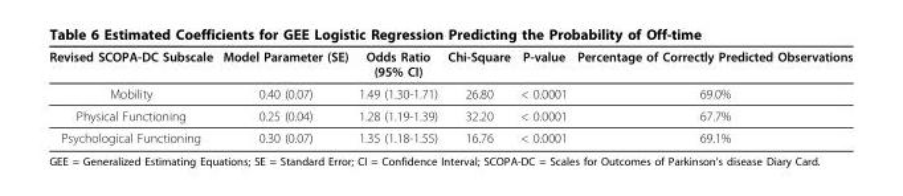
<table><thead><tr><td>Revised SCOPA-DC Subscale</td><td>Model Parameter (SE)</td><td>Odds Ratio (95% CI)</td><td>Chi-Square</td><td>P-value</td><td>Percentage of Correctly Predicted Observations</td></tr></thead><tbody><tr><td>Mobility</td><td>0.40 (0.07)</td><td>1.49 (1.30-1.71)</td><td>26.80</td><td>&lt; 0.0001</td><td>69.0%</td></tr><tr><td>Physical Functioning</td><td>0.25 (0.04)</td><td>1.28 (1.19-1.39)</td><td>32.20</td><td>&lt; 0.0001</td><td>67.7%</td></tr><tr><td>Psychological Functioning</td><td>0.30 (0.07)</td><td>1.35 (1.18-1.55)</td><td>16.76</td><td>&lt; 0.0001</td><td>69.1%</td></tr></tbody></table>